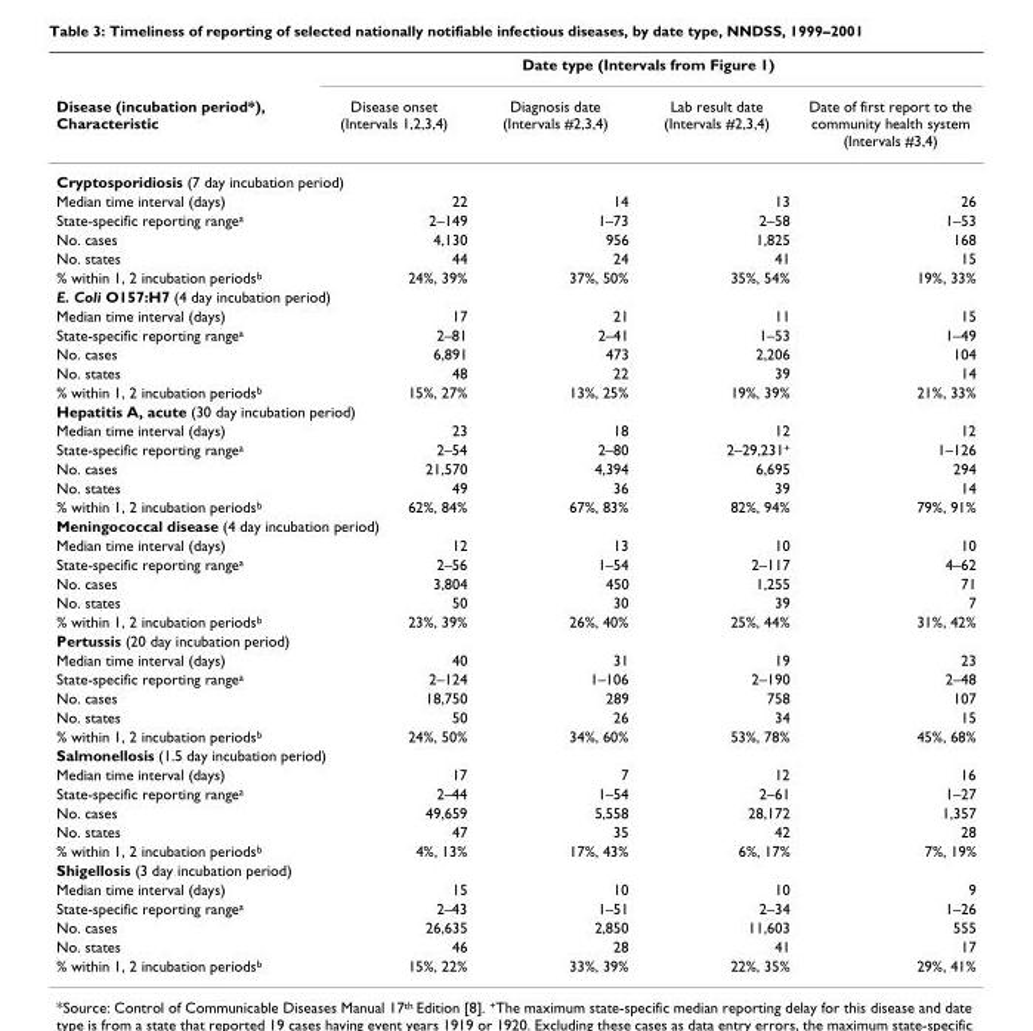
<table><thead><tr><td rowspan="2">Disease (incubation period*), Characteristic</td><td colspan="4">Date type (Intervals from Figure 1)</td></tr><tr><td>Disease onset (Intervals 1,2,3,4)</td><td>Diagnosis date (Intervals #2,3,4)</td><td>Lab result date (Intervals #2,3,4)</td><td>Date of first report to the community health system (Intervals #3,4)</td></tr></thead><tbody><tr><td colspan="5">Cryptosporidiosis (7 day incubation period)</td></tr><tr><td>Median time interval (days)</td><td>22</td><td>14</td><td>13</td><td>26</td></tr><tr><td>State-specific reporting range<sup>a</sup></td><td>2–149</td><td>1–73</td><td>2–58</td><td>1–53</td></tr><tr><td>No. cases</td><td>4,130</td><td>956</td><td>1,825</td><td>168</td></tr><tr><td>No. states</td><td>44</td><td>24</td><td>41</td><td>15</td></tr><tr><td>% within 1, 2 incubation periods<sup>b</sup></td><td>24%, 39%</td><td>37%, 50%</td><td>35%, 54%</td><td>19%, 33%</td></tr><tr><td colspan="5">E. Coli O157:H7 (4 day incubation period)</td></tr><tr><td>Median time interval (days)</td><td>17</td><td>21</td><td>11</td><td>15</td></tr><tr><td>State-specific reporting range<sup>a</sup></td><td>2–81</td><td>2–41</td><td>1–53</td><td>1–49</td></tr><tr><td>No. cases</td><td>6,891</td><td>473</td><td>2,206</td><td>104</td></tr><tr><td>No. states</td><td>48</td><td>22</td><td>39</td><td>14</td></tr><tr><td>% within 1, 2 incubation periods<sup>b</sup></td><td>15%, 27%</td><td>13%, 25%</td><td>19%, 39%</td><td>21%, 33%</td></tr><tr><td colspan="5">Hepatitis A, acute (30 day incubation period)</td></tr><tr><td>Median time interval (days)</td><td>23</td><td>18</td><td>12</td><td>12</td></tr><tr><td>State-specific reporting range<sup>a</sup></td><td>2–54</td><td>2–80</td><td>2–29,231<sup>+</sup></td><td>1–126</td></tr><tr><td>No. cases</td><td>21,570</td><td>4,394</td><td>6,695</td><td>294</td></tr><tr><td>No. states</td><td>49</td><td>36</td><td>39</td><td>14</td></tr><tr><td>% within 1, 2 incubation periods<sup>b</sup></td><td>62%, 84%</td><td>67%, 83%</td><td>82%, 94%</td><td>79%, 91%</td></tr><tr><td colspan="5">Meningococcal disease (4 day incubation period)</td></tr><tr><td>Median time interval (days)</td><td>12</td><td>13</td><td>10</td><td>10</td></tr><tr><td>State-specific reporting range<sup>a</sup></td><td>2–56</td><td>1–54</td><td>2–117</td><td>4–62</td></tr><tr><td>No. cases</td><td>3,804</td><td>450</td><td>1,255</td><td>71</td></tr><tr><td>No. states</td><td>50</td><td>30</td><td>39</td><td>7</td></tr><tr><td>% within 1, 2 incubation periods<sup>b</sup></td><td>23%, 39%</td><td>26%, 40%</td><td>25%, 44%</td><td>31%, 42%</td></tr><tr><td colspan="5">Pertussis (20 day incubation period)</td></tr><tr><td>Median time interval (days)</td><td>40</td><td>31</td><td>19</td><td>23</td></tr><tr><td>State-specific reporting range<sup>a</sup></td><td>2–124</td><td>1–106</td><td>2–190</td><td>2–48</td></tr><tr><td>No. cases</td><td>18,750</td><td>289</td><td>758</td><td>107</td></tr><tr><td>No. states</td><td>50</td><td>26</td><td>34</td><td>15</td></tr><tr><td>% within 1, 2 incubation periods<sup>b</sup></td><td>24%, 50%</td><td>34%, 60%</td><td>53%, 78%</td><td>45%, 68%</td></tr><tr><td colspan="5">Salmonellosis (1.5 day incubation period)</td></tr><tr><td>Median time interval (days)</td><td>17</td><td>7</td><td>12</td><td>16</td></tr><tr><td>State-specific reporting range<sup>a</sup></td><td>2–44</td><td>1–54</td><td>2–61</td><td>1–27</td></tr><tr><td>No. cases</td><td>49,659</td><td>5,558</td><td>28,172</td><td>1,357</td></tr><tr><td>No. states</td><td>47</td><td>35</td><td>42</td><td>28</td></tr><tr><td>% within 1, 2 incubation periods<sup>b</sup></td><td>4%, 13%</td><td>17%, 43%</td><td>6%, 17%</td><td>7%, 19%</td></tr><tr><td colspan="5">Shigellosis (3 day incubation period)</td></tr><tr><td>Median time interval (days)</td><td>15</td><td>10</td><td>10</td><td>9</td></tr><tr><td>State-specific reporting range<sup>a</sup></td><td>2–43</td><td>1–51</td><td>2–34</td><td>1–26</td></tr><tr><td>No. cases</td><td>26,635</td><td>2,850</td><td>11,603</td><td>555</td></tr><tr><td>No. states</td><td>46</td><td>28</td><td>41</td><td>17</td></tr><tr><td>% within 1, 2 incubation periods<sup>b</sup></td><td>15%, 22%</td><td>33%, 39%</td><td>22%, 35%</td><td>29%, 41%</td></tr></tbody></table>